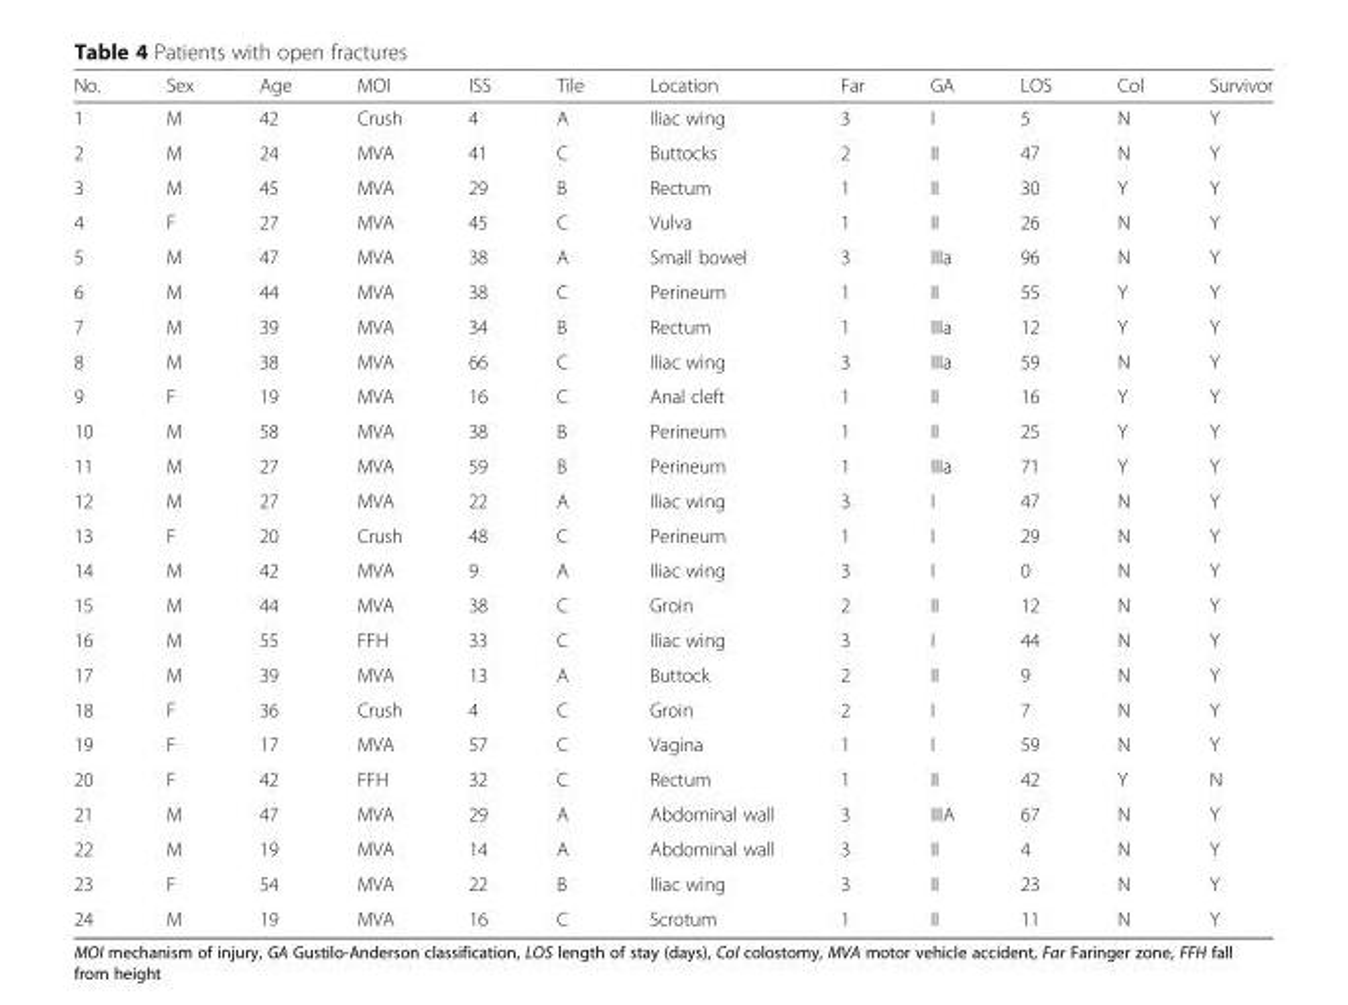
<table><thead><tr><td>No.</td><td>Sex</td><td>Age</td><td>MOI</td><td>ISS</td><td>Tile</td><td>Location</td><td>Far</td><td>GA</td><td>LOS</td><td>Col</td><td>Survivor</td></tr></thead><tbody><tr><td>1</td><td>M</td><td>42</td><td>Crush</td><td>4</td><td>A</td><td>Iliac wing</td><td>3</td><td>I</td><td>5</td><td>N</td><td>Y</td></tr><tr><td>2</td><td>M</td><td>24</td><td>MVA</td><td>41</td><td>C</td><td>Buttocks</td><td>2</td><td>II</td><td>47</td><td>N</td><td>Y</td></tr><tr><td>3</td><td>M</td><td>45</td><td>MVA</td><td>29</td><td>B</td><td>Rectum</td><td>1</td><td>II</td><td>30</td><td>Y</td><td>Y</td></tr><tr><td>4</td><td>F</td><td>27</td><td>MVA</td><td>45</td><td>C</td><td>Vulva</td><td>1</td><td>II</td><td>26</td><td>N</td><td>Y</td></tr><tr><td>5</td><td>M</td><td>47</td><td>MVA</td><td>38</td><td>A</td><td>Small bowel</td><td>3</td><td>IIIa</td><td>96</td><td>N</td><td>Y</td></tr><tr><td>6</td><td>M</td><td>44</td><td>MVA</td><td>38</td><td>C</td><td>Perineum</td><td>1</td><td>II</td><td>55</td><td>Y</td><td>Y</td></tr><tr><td>7</td><td>M</td><td>39</td><td>MVA</td><td>34</td><td>B</td><td>Rectum</td><td>1</td><td>IIIa</td><td>12</td><td>Y</td><td>Y</td></tr><tr><td>8</td><td>M</td><td>38</td><td>MVA</td><td>66</td><td>C</td><td>Iliac wing</td><td>3</td><td>IIIa</td><td>59</td><td>N</td><td>Y</td></tr><tr><td>9</td><td>F</td><td>19</td><td>MVA</td><td>16</td><td>C</td><td>Anal cleft</td><td>1</td><td>II</td><td>16</td><td>Y</td><td>Y</td></tr><tr><td>10</td><td>M</td><td>58</td><td>MVA</td><td>38</td><td>B</td><td>Perineum</td><td>1</td><td>II</td><td>25</td><td>Y</td><td>Y</td></tr><tr><td>11</td><td>M</td><td>27</td><td>MVA</td><td>59</td><td>B</td><td>Perineum</td><td>1</td><td>IIIa</td><td>71</td><td>Y</td><td>Y</td></tr><tr><td>12</td><td>M</td><td>27</td><td>MVA</td><td>22</td><td>A</td><td>Iliac wing</td><td>3</td><td>I</td><td>47</td><td>N</td><td>Y</td></tr><tr><td>13</td><td>F</td><td>20</td><td>Crush</td><td>48</td><td>C</td><td>Perineum</td><td>1</td><td>I</td><td>29</td><td>N</td><td>Y</td></tr><tr><td>14</td><td>M</td><td>42</td><td>MVA</td><td>9</td><td>A</td><td>Iliac wing</td><td>3</td><td>I</td><td>0</td><td>N</td><td>Y</td></tr><tr><td>15</td><td>M</td><td>44</td><td>MVA</td><td>38</td><td>C</td><td>Groin</td><td>2</td><td>II</td><td>12</td><td>N</td><td>Y</td></tr><tr><td>16</td><td>M</td><td>55</td><td>FFH</td><td>33</td><td>C</td><td>Iliac wing</td><td>3</td><td>I</td><td>44</td><td>N</td><td>Y</td></tr><tr><td>17</td><td>M</td><td>39</td><td>MVA</td><td>13</td><td>A</td><td>Buttock</td><td>2</td><td>II</td><td>9</td><td>N</td><td>Y</td></tr><tr><td>18</td><td>F</td><td>36</td><td>Crush</td><td>4</td><td>C</td><td>Groin</td><td>2</td><td>I</td><td>7</td><td>N</td><td>Y</td></tr><tr><td>19</td><td>F</td><td>17</td><td>MVA</td><td>57</td><td>C</td><td>Vagina</td><td>1</td><td>I</td><td>59</td><td>N</td><td>Y</td></tr><tr><td>20</td><td>F</td><td>42</td><td>FFH</td><td>32</td><td>C</td><td>Rectum</td><td>1</td><td>II</td><td>42</td><td>Y</td><td>N</td></tr><tr><td>21</td><td>M</td><td>47</td><td>MVA</td><td>29</td><td>A</td><td>Abdominal wall</td><td>3</td><td>IIIA</td><td>67</td><td>N</td><td>Y</td></tr><tr><td>22</td><td>M</td><td>19</td><td>MVA</td><td>14</td><td>A</td><td>Abdominal wall</td><td>3</td><td>II</td><td>4</td><td>N</td><td>Y</td></tr><tr><td>23</td><td>F</td><td>54</td><td>MVA</td><td>22</td><td>B</td><td>Iliac wing</td><td>3</td><td>II</td><td>23</td><td>N</td><td>Y</td></tr><tr><td>24</td><td>M</td><td>19</td><td>MVA</td><td>16</td><td>C</td><td>Scrotum</td><td>1</td><td>II</td><td>11</td><td>N</td><td>Y</td></tr></tbody></table>